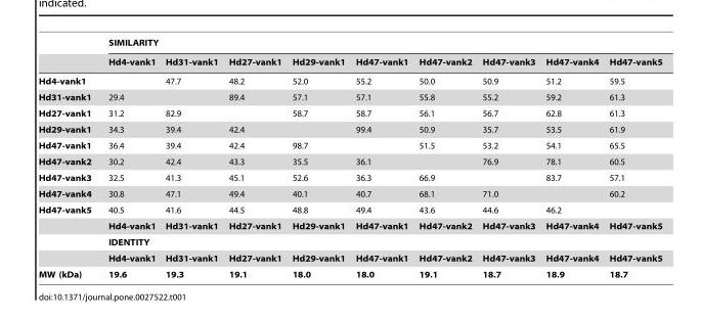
<table><thead><tr><td rowspan="2"></td><td colspan="9">SIMILARITY</td></tr><tr><td>Hd4-vank1</td><td>Hd31-vank1</td><td>Hd27-vank1</td><td>Hd29-vank1</td><td>Hd47-vank1</td><td>Hd47-vank2</td><td>Hd47-vank3</td><td>Hd47-vank4</td><td>Hd47-vank5</td></tr></thead><tbody><tr><td>Hd4-vank1</td><td></td><td>47.7</td><td>48.2</td><td>52.0</td><td>55.2</td><td>50.0</td><td>50.9</td><td>51.2</td><td>59.5</td></tr><tr><td>Hd31-vank1</td><td>29.4</td><td></td><td>89.4</td><td>57.1</td><td>57.1</td><td>55.8</td><td>55.2</td><td>59.2</td><td>61.3</td></tr><tr><td>Hd27-vank1</td><td>31.2</td><td>82.9</td><td></td><td>58.7</td><td>58.7</td><td>56.1</td><td>56.7</td><td>62.8</td><td>61.3</td></tr><tr><td>Hd29-vank1</td><td>34.3</td><td>39.4</td><td>42.4</td><td></td><td>99.4</td><td>50.9</td><td>35.7</td><td>53.5</td><td>61.9</td></tr><tr><td>Hd47-vank1</td><td>36.4</td><td>39.4</td><td>42.4</td><td>98.7</td><td></td><td>51.5</td><td>53.2</td><td>54.1</td><td>65.5</td></tr><tr><td>Hd47-vank2</td><td>30.2</td><td>42.4</td><td>43.3</td><td>35.5</td><td>36.1</td><td></td><td>76.9</td><td>78.1</td><td>60.5</td></tr><tr><td>Hd47-vank3</td><td>32.5</td><td>41.3</td><td>45.1</td><td>52.6</td><td>36.3</td><td>66.9</td><td></td><td>83.7</td><td>57.1</td></tr><tr><td>Hd47-vank4</td><td>30.8</td><td>47.1</td><td>49.4</td><td>40.1</td><td>40.7</td><td>68.1</td><td>71.0</td><td></td><td>60.2</td></tr><tr><td rowspan="4">Hd47-vank5</td><td>40.5</td><td>41.6</td><td>44.5</td><td>48.8</td><td>49.4</td><td>43.6</td><td>44.6</td><td>46.2</td><td></td></tr><tr><td>Hd4-vank1</td><td>Hd31-vank1</td><td>Hd27-vank1</td><td>Hd29-vank1</td><td>Hd47-vank1</td><td>Hd47-vank2</td><td>Hd47-vank3</td><td>Hd47-vank4</td><td>Hd47-vank5</td></tr><tr><td colspan="9">IDENTITY</td></tr><tr><td>Hd4-vank1</td><td>Hd31-vank1</td><td>Hd27-vank1</td><td>Hd29-vank1</td><td>Hd47-vank1</td><td>Hd47-vank2</td><td>Hd47-vank3</td><td>Hd47-vank4</td><td>Hd47-vank5</td></tr><tr><td>MW (kDa)</td><td>19.6</td><td>19.3</td><td>19.1</td><td>18.0</td><td>18.0</td><td>19.1</td><td>18.7</td><td>18.9</td><td>18.7</td></tr></tbody></table>